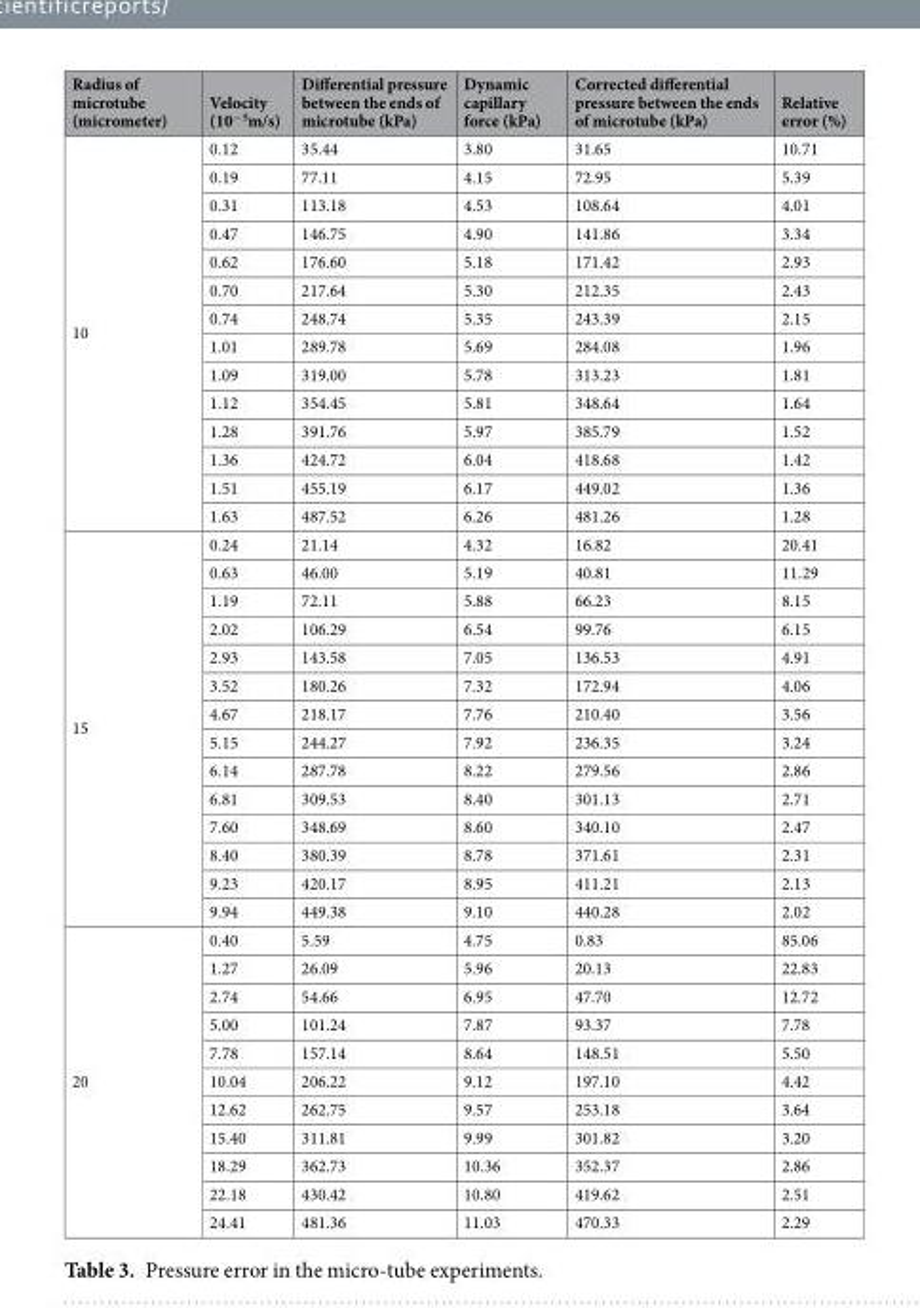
<table><thead><tr><td>Radius of microtube (micrometer)</td><td>Velocity (10<sup>−5</sup>m/s)</td><td>Differential pressure between the ends of microtube (kPa)</td><td>Dynamic capillary force (kPa)</td><td>Corrected differential pressure between the ends of microtube (kPa)</td><td>Relative error (%)</td></tr></thead><tbody><tr><td rowspan="14">10</td><td>0.12</td><td>35.44</td><td>3.80</td><td>31.65</td><td>10.71</td></tr><tr><td>0.19</td><td>77.11</td><td>4.15</td><td>72.95</td><td>5.39</td></tr><tr><td>0.31</td><td>113.18</td><td>4.53</td><td>108.64</td><td>4.01</td></tr><tr><td>0.47</td><td>146.75</td><td>4.90</td><td>141.86</td><td>3.34</td></tr><tr><td>0.62</td><td>176.60</td><td>5.18</td><td>171.42</td><td>2.93</td></tr><tr><td>0.70</td><td>217.64</td><td>5.30</td><td>212.35</td><td>2.43</td></tr><tr><td>0.74</td><td>248.74</td><td>5.35</td><td>243.39</td><td>2.15</td></tr><tr><td>1.01</td><td>289.78</td><td>5.69</td><td>284.08</td><td>1.96</td></tr><tr><td>1.09</td><td>319.00</td><td>5.78</td><td>313.23</td><td>1.81</td></tr><tr><td>1.12</td><td>354.45</td><td>5.81</td><td>348.64</td><td>1.64</td></tr><tr><td>1.28</td><td>391.76</td><td>5.97</td><td>385.79</td><td>1.52</td></tr><tr><td>1.36</td><td>424.72</td><td>6.04</td><td>418.68</td><td>1.42</td></tr><tr><td>1.51</td><td>455.19</td><td>6.17</td><td>449.02</td><td>1.36</td></tr><tr><td>1.63</td><td>487.52</td><td>6.26</td><td>481.26</td><td>1.28</td></tr><tr><td rowspan="14">15</td><td>0.24</td><td>21.14</td><td>4.32</td><td>16.82</td><td>20.41</td></tr><tr><td>0.63</td><td>46.00</td><td>5.19</td><td>40.81</td><td>11.29</td></tr><tr><td>1.19</td><td>72.11</td><td>5.88</td><td>66.23</td><td>8.15</td></tr><tr><td>2.02</td><td>106.29</td><td>6.54</td><td>99.76</td><td>6.15</td></tr><tr><td>2.93</td><td>143.58</td><td>7.05</td><td>136.53</td><td>4.91</td></tr><tr><td>3.52</td><td>180.26</td><td>7.32</td><td>172.94</td><td>4.06</td></tr><tr><td>4.67</td><td>218.17</td><td>7.76</td><td>210.40</td><td>3.56</td></tr><tr><td>5.15</td><td>244.27</td><td>7.92</td><td>236.35</td><td>3.24</td></tr><tr><td>6.14</td><td>287.78</td><td>8.22</td><td>279.56</td><td>2.86</td></tr><tr><td>6.81</td><td>309.53</td><td>8.40</td><td>301.13</td><td>2.71</td></tr><tr><td>7.60</td><td>348.69</td><td>8.60</td><td>340.10</td><td>2.47</td></tr><tr><td>8.40</td><td>380.39</td><td>8.78</td><td>371.61</td><td>2.31</td></tr><tr><td>9.23</td><td>420.17</td><td>8.95</td><td>411.21</td><td>2.13</td></tr><tr><td>9.94</td><td>449.38</td><td>9.10</td><td>440.28</td><td>2.02</td></tr><tr><td rowspan="11">20</td><td>0.40</td><td>5.59</td><td>4.75</td><td>0.83</td><td>85.06</td></tr><tr><td>1.27</td><td>26.09</td><td>5.96</td><td>20.13</td><td>22.83</td></tr><tr><td>2.74</td><td>54.66</td><td>6.95</td><td>47.70</td><td>12.72</td></tr><tr><td>5.00</td><td>101.24</td><td>7.87</td><td>93.37</td><td>7.78</td></tr><tr><td>7.78</td><td>157.14</td><td>8.64</td><td>148.51</td><td>5.50</td></tr><tr><td>10.04</td><td>206.22</td><td>9.12</td><td>197.10</td><td>4.42</td></tr><tr><td>12.62</td><td>262.75</td><td>9.57</td><td>253.18</td><td>3.64</td></tr><tr><td>15.40</td><td>311.81</td><td>9.99</td><td>301.82</td><td>3.20</td></tr><tr><td>18.29</td><td>362.73</td><td>10.36</td><td>352.37</td><td>2.86</td></tr><tr><td>22.18</td><td>430.42</td><td>10.80</td><td>419.62</td><td>2.51</td></tr><tr><td>24.41</td><td>481.36</td><td>11.03</td><td>470.33</td><td>2.29</td></tr></tbody></table>